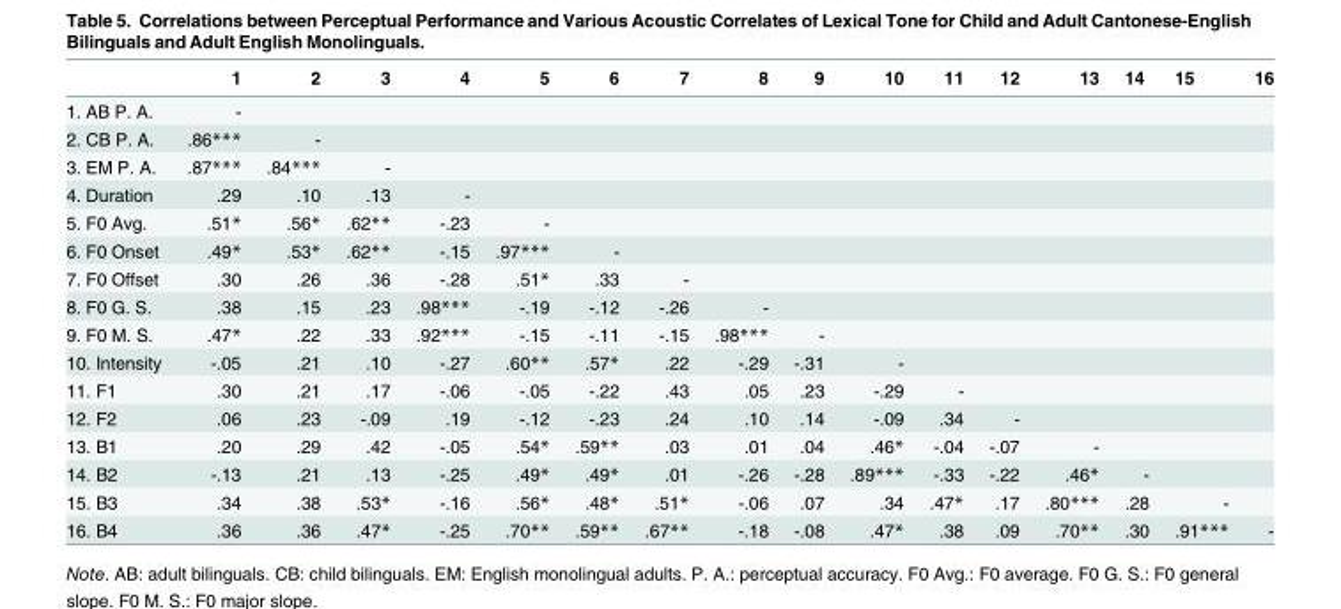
<table><thead><tr><td></td><td>1</td><td>2</td><td>3</td><td>4</td><td>5</td><td>6</td><td>7</td><td>8</td><td>9</td><td>10</td><td>11</td><td>12</td><td>13</td><td>14</td><td>15</td><td>16</td></tr></thead><tbody><tr><td>1. AB P. A.</td><td>-</td><td></td><td></td><td></td><td></td><td></td><td></td><td></td><td></td><td></td><td></td><td></td><td></td><td></td><td></td><td></td></tr><tr><td>2. CB P. A.</td><td>.86***</td><td>-</td><td></td><td></td><td></td><td></td><td></td><td></td><td></td><td></td><td></td><td></td><td></td><td></td><td></td><td></td></tr><tr><td>3. EM P. A.</td><td>.87***</td><td>.84***</td><td>-</td><td></td><td></td><td></td><td></td><td></td><td></td><td></td><td></td><td></td><td></td><td></td><td></td><td></td></tr><tr><td>4. Duration</td><td>.29</td><td>.10</td><td>.13</td><td>-</td><td></td><td></td><td></td><td></td><td></td><td></td><td></td><td></td><td></td><td></td><td></td><td></td></tr><tr><td>5. F0 Avg.</td><td>.51*</td><td>.56*</td><td>.62**</td><td>-.23</td><td>-</td><td></td><td></td><td></td><td></td><td></td><td></td><td></td><td></td><td></td><td></td><td></td></tr><tr><td>6. F0 Onset</td><td>.49*</td><td>.53*</td><td>.62**</td><td>-.15</td><td>.97***</td><td>-</td><td></td><td></td><td></td><td></td><td></td><td></td><td></td><td></td><td></td><td></td></tr><tr><td>7. F0 Offset</td><td>.30</td><td>.26</td><td>.36</td><td>-.28</td><td>.51*</td><td>.33</td><td>-</td><td></td><td></td><td></td><td></td><td></td><td></td><td></td><td></td><td></td></tr><tr><td>8. F0 G. S.</td><td>.38</td><td>.15</td><td>.23</td><td>.98***</td><td>-.19</td><td>-.12</td><td>-.26</td><td>-</td><td></td><td></td><td></td><td></td><td></td><td></td><td></td><td></td></tr><tr><td>9. F0 M. S.</td><td>.47*</td><td>.22</td><td>.33</td><td>.92***</td><td>-.15</td><td>-.11</td><td>-.15</td><td>.98***</td><td>-</td><td></td><td></td><td></td><td></td><td></td><td></td><td></td></tr><tr><td>10. Intensity</td><td>-.05</td><td>.21</td><td>.10</td><td>-.27</td><td>.60**</td><td>.57*</td><td>.22</td><td>-.29</td><td>-.31</td><td>-</td><td></td><td></td><td></td><td></td><td></td><td></td></tr><tr><td>11. F1</td><td>.30</td><td>.21</td><td>.17</td><td>-.06</td><td>-.05</td><td>-.22</td><td>.43</td><td>.05</td><td>.23</td><td>-.29</td><td>-</td><td></td><td></td><td></td><td></td><td></td></tr><tr><td>12. F2</td><td>.06</td><td>.23</td><td>-.09</td><td>.19</td><td>-.12</td><td>-.23</td><td>.24</td><td>.10</td><td>.14</td><td>-.09</td><td>.34</td><td>-</td><td></td><td></td><td></td><td></td></tr><tr><td>13. B1</td><td>.20</td><td>.29</td><td>.42</td><td>-.05</td><td>.54*</td><td>.59**</td><td>.03</td><td>.01</td><td>.04</td><td>.46*</td><td>-.04</td><td>-.07</td><td>-</td><td></td><td></td><td></td></tr><tr><td>14. B2</td><td>-.13</td><td>.21</td><td>.13</td><td>-.25</td><td>.49*</td><td>.49*</td><td>.01</td><td>-.26</td><td>-.28</td><td>.89***</td><td>-.33</td><td>-.22</td><td>.46*</td><td>-</td><td></td><td></td></tr><tr><td>15. B3</td><td>.34</td><td>.38</td><td>.53*</td><td>-.16</td><td>.56*</td><td>.48*</td><td>.51*</td><td>-.06</td><td>.07</td><td>.34</td><td>.47*</td><td>.17</td><td>.80***</td><td>.28</td><td>-</td><td></td></tr><tr><td>16. B4</td><td>.36</td><td>.36</td><td>.47*</td><td>-.25</td><td>.70**</td><td>.59**</td><td>.67**</td><td>-.18</td><td>-.08</td><td>.47*</td><td>.38</td><td>.09</td><td>.70**</td><td>.30</td><td>.91***</td><td>-</td></tr></tbody></table>